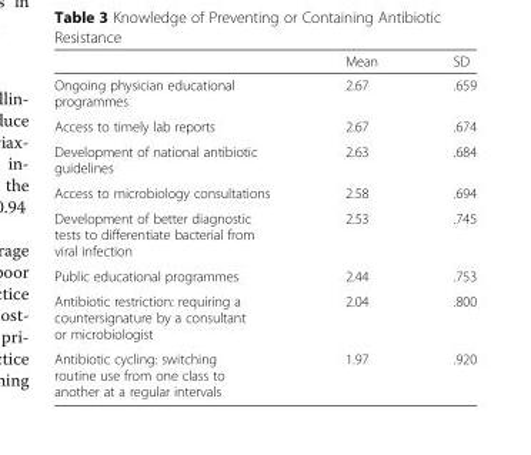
<table><thead><tr><td></td><td>Mean</td><td>SD</td></tr></thead><tbody><tr><td>Ongoing physician educational programmes</td><td>2.67</td><td>.659</td></tr><tr><td>Access to timely lab reports</td><td>2.67</td><td>.674</td></tr><tr><td>Development of national antibiotic guidelines</td><td>2.63</td><td>.684</td></tr><tr><td>Access to microbiology consultations</td><td>2.58</td><td>.694</td></tr><tr><td>Development of better diagnostic tests to differentiate bacterial from viral infection</td><td>2.53</td><td>.745</td></tr><tr><td>Public educational programmes</td><td>2.44</td><td>.753</td></tr><tr><td>Antibiotic restriction: requiring a countersignature by a consultant or microbiologist</td><td>2.04</td><td>.800</td></tr><tr><td>Antibiotic cycling: switching routine use from one class to another at a regular intervals</td><td>1.97</td><td>.920</td></tr></tbody></table>